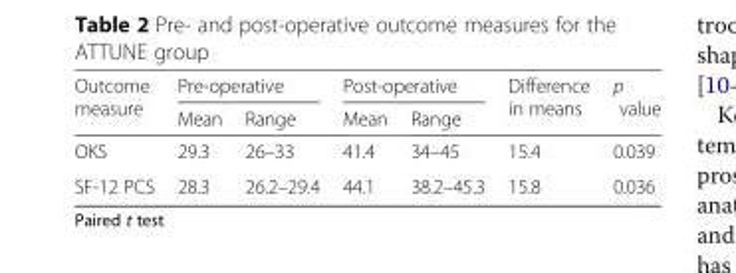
<table><thead><tr><td rowspan="2">Outcome measure</td><td colspan="2">Pre-operative</td><td colspan="2">Post-operative</td><td rowspan="2">Difference in means</td><td rowspan="2">p value</td></tr><tr><td>Mean</td><td>Range</td><td>Mean</td><td>Range</td></tr></thead><tbody><tr><td>OKS</td><td>29.3</td><td>26–33</td><td>41.4</td><td>34–45</td><td>15.4</td><td>0.039</td></tr><tr><td>SF-12 PCS</td><td>28.3</td><td>26.2–29.4</td><td>44.1</td><td>38.2–45.3</td><td>15.8</td><td>0.036</td></tr></tbody></table>